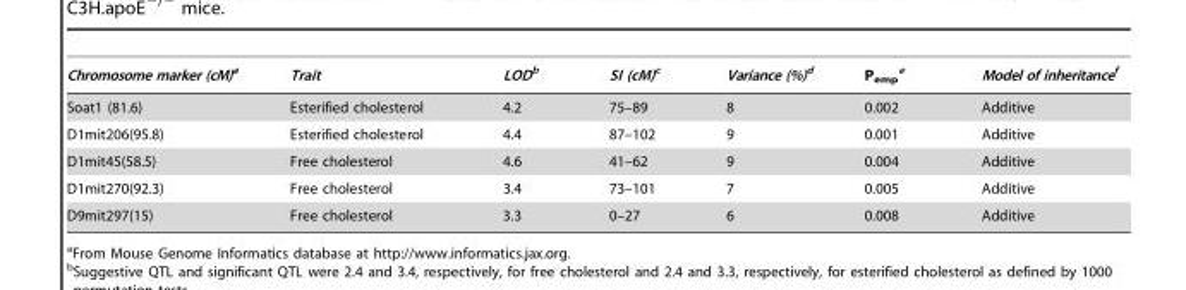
<table><thead><tr><td>Chromosome marker (cM)a</td><td>Trait</td><td>LODb</td><td>SI (cM)c</td><td>Variance (%)d</td><td>P<sub>emp</sub> e</td><td>Model of inheritancef</td></tr></thead><tbody><tr><td>Soat1 (81.6)</td><td>Esterified cholesterol</td><td>4.2</td><td>75–89</td><td>8</td><td>0.002</td><td>Additive</td></tr><tr><td>D1mit206(95.8)</td><td>Esterified cholesterol</td><td>4.4</td><td>87–102</td><td>9</td><td>0.001</td><td>Additive</td></tr><tr><td>D1mit45(58.5)</td><td>Free cholesterol</td><td>4.6</td><td>41–62</td><td>9</td><td>0.004</td><td>Additive</td></tr><tr><td>D1mit270(92.3)</td><td>Free cholesterol</td><td>3.4</td><td>73–101</td><td>7</td><td>0.005</td><td>Additive</td></tr><tr><td>D9mit297(15)</td><td>Free cholesterol</td><td>3.3</td><td>0–27</td><td>6</td><td>0.008</td><td>Additive</td></tr></tbody></table>